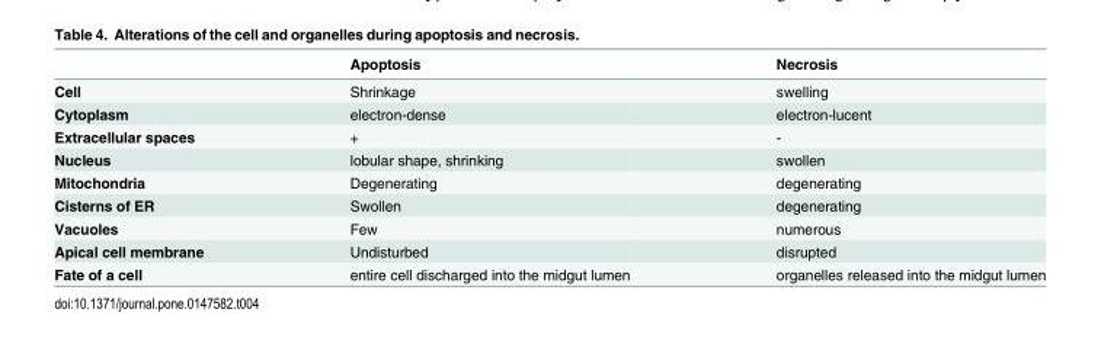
<table><thead><tr><td></td><td>Apoptosis</td><td>Necrosis</td></tr></thead><tbody><tr><td>Cell</td><td>Shrinkage</td><td>swelling</td></tr><tr><td>Cytoplasm</td><td>electron-dense</td><td>electron-lucent</td></tr><tr><td>Extracellular spaces</td><td>+</td><td>-</td></tr><tr><td>Nucleus</td><td>lobular shape, shrinking</td><td>swollen</td></tr><tr><td>Mitochondria</td><td>Degenerating</td><td>degenerating</td></tr><tr><td>Cisterns of ER</td><td>Swollen</td><td>degenerating</td></tr><tr><td>Vacuoles</td><td>Few</td><td>numerous</td></tr><tr><td>Apical cell membrane</td><td>Undisturbed</td><td>disrupted</td></tr><tr><td>Fate of a cell</td><td>entire cell discharged into the midgut lumen</td><td>organelles released into the midgut lumen</td></tr></tbody></table>